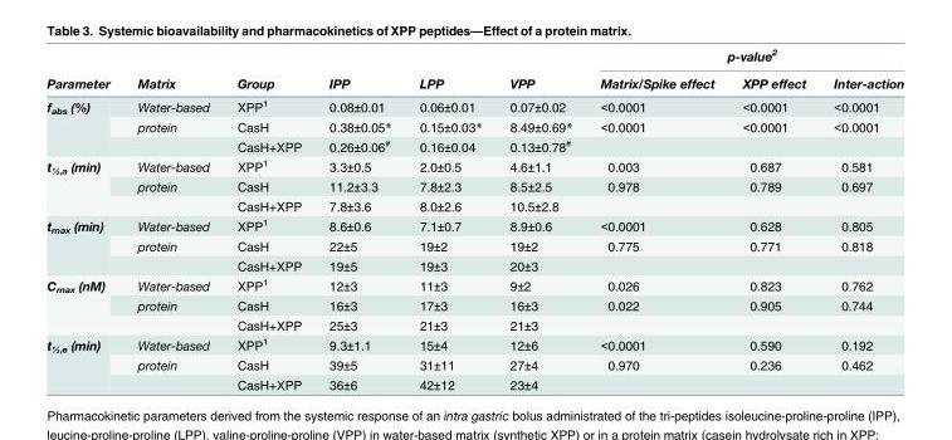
<table><thead><tr><td rowspan="2">Parameter</td><td rowspan="2">Matrix</td><td rowspan="2">Group</td><td rowspan="2">IPP</td><td rowspan="2">LPP</td><td rowspan="2">VPP</td><td colspan="3">p-value<sup>2</sup></td></tr><tr><td>Matrix/Spike effect</td><td>XPP effect</td><td>Inter-action</td></tr></thead><tbody><tr><td rowspan="3">f<sub>abs</sub> (%)</td><td>Water-based</td><td>XPP<sup>1</sup></td><td>0.08±0.01</td><td>0.06±0.01</td><td>0.07±0.02</td><td>&lt;0.0001</td><td>&lt;0.0001</td><td>&lt;0.0001</td></tr><tr><td>protein</td><td>CasH</td><td>0.38±0.05*</td><td>0.15±0.03*</td><td>8.49±0.69*</td><td>&lt;0.0001</td><td>&lt;0.0001</td><td>&lt;0.0001</td></tr><tr><td></td><td>CasH+XPP</td><td>0.26±0.06<sup>#</sup></td><td>0.16±0.04</td><td>0.13±0.78<sup>#</sup></td><td></td><td></td><td></td></tr><tr><td rowspan="3">t<sub>½,a</sub> (min)</td><td>Water-based</td><td>XPP<sup>1</sup></td><td>3.3±0.5</td><td>2.0±0.5</td><td>4.6±1.1</td><td>0.003</td><td>0.687</td><td>0.581</td></tr><tr><td>protein</td><td>CasH</td><td>11.2±3.3</td><td>7.8±2.3</td><td>8.5±2.5</td><td>0.978</td><td>0.789</td><td>0.697</td></tr><tr><td></td><td>CasH+XPP</td><td>7.8±3.6</td><td>8.0±2.6</td><td>10.5±2.8</td><td></td><td></td><td></td></tr><tr><td rowspan="3">t<sub>max</sub> (min)</td><td>Water-based</td><td>XPP<sup>1</sup></td><td>8.6±0.6</td><td>7.1±0.7</td><td>8.9±0.6</td><td>&lt;0.0001</td><td>0.628</td><td>0.805</td></tr><tr><td>protein</td><td>CasH</td><td>22±5</td><td>19±2</td><td>19±2</td><td>0.775</td><td>0.771</td><td>0.818</td></tr><tr><td></td><td>CasH+XPP</td><td>19±5</td><td>19±3</td><td>20±3</td><td></td><td></td><td></td></tr><tr><td rowspan="3">C<sub>max</sub> (nM)</td><td>Water-based</td><td>XPP<sup>1</sup></td><td>12±3</td><td>11±3</td><td>9±2</td><td>0.026</td><td>0.823</td><td>0.762</td></tr><tr><td>protein</td><td>CasH</td><td>16±3</td><td>17±3</td><td>16±3</td><td>0.022</td><td>0.905</td><td>0.744</td></tr><tr><td></td><td>CasH+XPP</td><td>25±3</td><td>21±3</td><td>21±3</td><td></td><td></td><td></td></tr><tr><td rowspan="3">t<sub>½,e</sub> (min)</td><td>Water-based</td><td>XPP<sup>1</sup></td><td>9.3±1.1</td><td>15±4</td><td>12±6</td><td>&lt;0.0001</td><td>0.590</td><td>0.192</td></tr><tr><td>protein</td><td>CasH</td><td>39±5</td><td>31±11</td><td>27±4</td><td>0.970</td><td>0.236</td><td>0.462</td></tr><tr><td></td><td>CasH+XPP</td><td>36±6</td><td>42±12</td><td>23±4</td><td></td><td></td><td></td></tr></tbody></table>